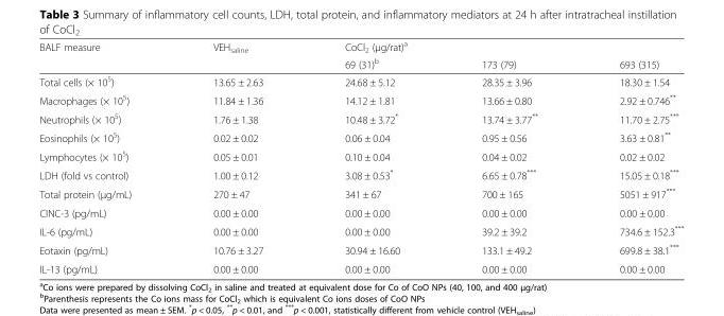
<table><thead><tr><td rowspan="2">BALF measure</td><td rowspan="2">VEH<sub>saline</sub></td><td colspan="3">CoCl<sub>2</sub> (μg/rat)<sup>a</sup></td></tr><tr><td>69 (31)<sup>b</sup></td><td>173 (79)</td><td>693 (315)</td></tr></thead><tbody><tr><td>Total cells (× 10<sup>5</sup>)</td><td>13.65 ± 2.63</td><td>24.68 ± 5.12</td><td>28.35 ± 3.96</td><td>18.30 ± 1.54</td></tr><tr><td>Macrophages (× 10<sup>5</sup>)</td><td>11.84 ± 1.36</td><td>14.12 ± 1.81</td><td>13.66 ± 0.80</td><td>2.92 ± 0.746**</td></tr><tr><td>Neutrophils (× 10<sup>5</sup>)</td><td>1.76 ± 1.38</td><td>10.48 ± 3.72*</td><td>13.74 ± 3.77**</td><td>11.70 ± 2.75***</td></tr><tr><td>Eosinophils (× 10<sup>5</sup>)</td><td>0.02 ± 0.02</td><td>0.06 ± 0.04</td><td>0.95 ± 0.56</td><td>3.63 ± 0.81**</td></tr><tr><td>Lymphocytes (× 10<sup>5</sup>)</td><td>0.05 ± 0.01</td><td>0.10 ± 0.04</td><td>0.04 ± 0.02</td><td>0.02 ± 0.02</td></tr><tr><td>LDH (fold vs control)</td><td>1.00 ± 0.12</td><td>3.08 ± 0.53*</td><td>6.65 ± 0.78***</td><td>15.05 ± 0.18***</td></tr><tr><td>Total protein (μg/mL)</td><td>270 ± 47</td><td>341 ± 67</td><td>700 ± 165</td><td>5051 ± 917***</td></tr><tr><td>CINC-3 (pg/mL)</td><td>0.00 ± 0.00</td><td>0.00 ± 0.00</td><td>0.00 ± 0.00</td><td>0.00 ± 0.00</td></tr><tr><td>IL-6 (pg/mL)</td><td>0.00 ± 0.00</td><td>0.00 ± 0.00</td><td>39.2 ± 39.2</td><td>734.6 ± 152.3***</td></tr><tr><td>Eotaxin (pg/mL)</td><td>10.76 ± 3.27</td><td>30.94 ± 16.60</td><td>133.1 ± 49.2</td><td>699.8 ± 38.1***</td></tr><tr><td>IL-13 (pg/mL)</td><td>0.00 ± 0.00</td><td>0.00 ± 0.00</td><td>0.00 ± 0.00</td><td>0.00 ± 0.00</td></tr></tbody></table>